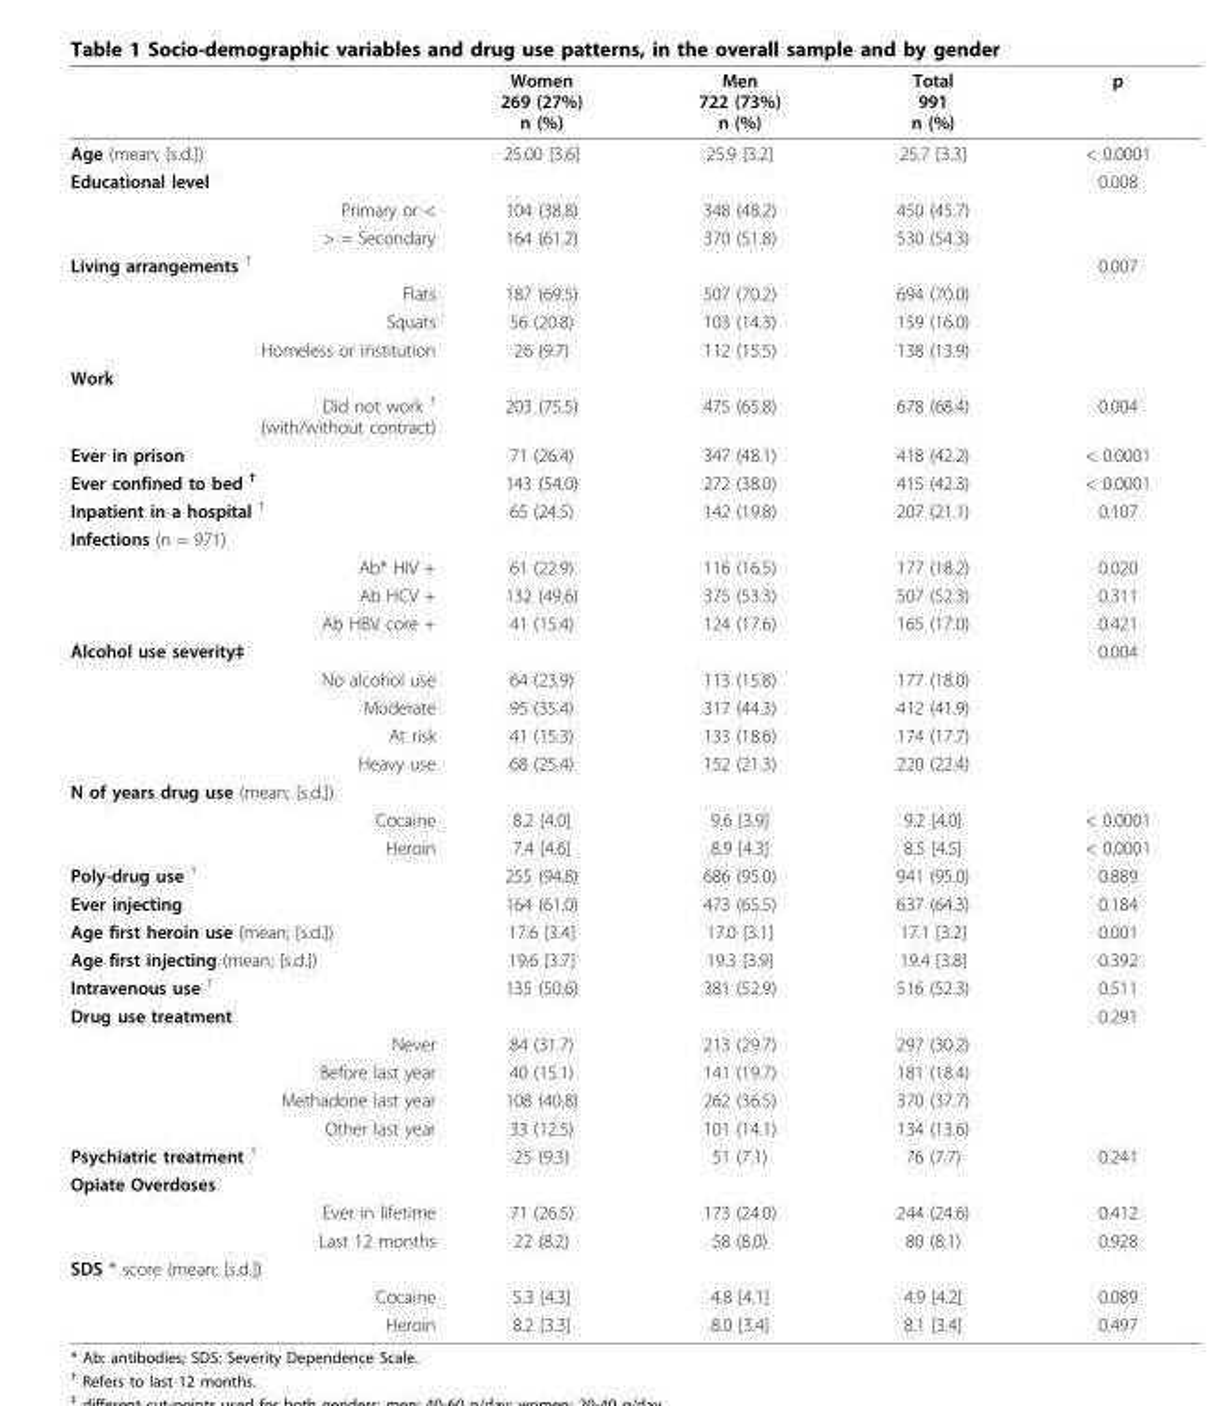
<table><thead><tr><td></td><td>Women 269 (27%) n (%)</td><td>Men 722 (73%) n (%)</td><td>Total 991 n (%)</td><td>p</td></tr></thead><tbody><tr><td>Age (mean; [s.d.])</td><td>25.00 [3.6]</td><td>25.9 [3.2]</td><td>25.7 [3.3]</td><td>&lt; 0.0001</td></tr><tr><td>Educational level</td><td></td><td></td><td></td><td>0.008</td></tr><tr><td>Primary or &lt;</td><td>104 (38.8)</td><td>348 (48.2)</td><td>450 (45.7)</td><td></td></tr><tr><td>&gt; = Secondary</td><td>164 (61.2)</td><td>370 (51.8)</td><td>530 (54.3)</td><td></td></tr><tr><td>Living arrangements <sup>†</sup></td><td></td><td></td><td></td><td>0.007</td></tr><tr><td>Flats</td><td>187 (69.5)</td><td>507 (70.2)</td><td>694 (70.0)</td><td></td></tr><tr><td>Squats</td><td>56 (20.8)</td><td>103 (14.3)</td><td>159 (16.0)</td><td></td></tr><tr><td>Homeless or institution</td><td>26 (9.7)</td><td>112 (15.5)</td><td>138 (13.9)</td><td></td></tr><tr><td colspan="5">Work</td></tr><tr><td>Did not work <sup>†</sup> (with/without contract)</td><td>203 (75.5)</td><td>475 (65.8)</td><td>678 (68.4)</td><td>0.004</td></tr><tr><td>Ever in prison</td><td>71 (26.4)</td><td>347 (48.1)</td><td>418 (42.2)</td><td>&lt; 0.0001</td></tr><tr><td>Ever confined to bed <sup>†</sup></td><td>143 (54.0)</td><td>272 (38.0)</td><td>415 (42.3)</td><td>&lt; 0.0001</td></tr><tr><td>Inpatient in a hospital <sup>†</sup></td><td>65 (24.5)</td><td>142 (19.8)</td><td>207 (21.1)</td><td>0.107</td></tr><tr><td colspan="5">Infections (n = 971)</td></tr><tr><td>Ab* HIV +</td><td>61 (22.9)</td><td>116 (16.5)</td><td>177 (18.2)</td><td>0.020</td></tr><tr><td>Ab HCV +</td><td>132 (49.6)</td><td>375 (53.3)</td><td>507 (52.3)</td><td>0.311</td></tr><tr><td>Ab HBV core +</td><td>41 (15.4)</td><td>124 (17.6)</td><td>165 (17.0)</td><td>0.421</td></tr><tr><td>Alcohol use severity‡</td><td></td><td></td><td></td><td>0.004</td></tr><tr><td>No alcohol use</td><td>64 (23.9)</td><td>113 (15.8)</td><td>177 (18.0)</td><td></td></tr><tr><td>Moderate</td><td>95 (35.4)</td><td>317 (44.3)</td><td>412 (41.9)</td><td></td></tr><tr><td>At risk</td><td>41 (15.3)</td><td>133 (18.6)</td><td>174 (17.7)</td><td></td></tr><tr><td>Heavy use</td><td>68 (25.4)</td><td>152 (21.3)</td><td>220 (22.4)</td><td></td></tr><tr><td colspan="5">N of years drug use (mean; [s.d.])</td></tr><tr><td>Cocaine</td><td>8.2 [4.0]</td><td>9.6 [3.9]</td><td>9.2 [4.0]</td><td>&lt; 0.0001</td></tr><tr><td>Heroin</td><td>7.4 [4.6]</td><td>8.9 [4.3]</td><td>8.5 [4.5]</td><td>&lt; 0.0001</td></tr><tr><td>Poly-drug use <sup>†</sup></td><td>255 (94.8)</td><td>686 (95.0)</td><td>941 (95.0)</td><td>0.889</td></tr><tr><td>Ever injecting</td><td>164 (61.0)</td><td>473 (65.5)</td><td>637 (64.3)</td><td>0.184</td></tr><tr><td>Age first heroin use (mean; [s.d.])</td><td>17.6 [3.4]</td><td>17.0 [3.1]</td><td>17.1 [3.2]</td><td>0.001</td></tr><tr><td>Age first injecting (mean; [s.d.])</td><td>19.6 [3.7]</td><td>19.3 [3.9]</td><td>19.4 [3.8]</td><td>0.392</td></tr><tr><td>Intravenous use <sup>†</sup></td><td>135 (50.6)</td><td>381 (52.9)</td><td>516 (52.3)</td><td>0.511</td></tr><tr><td>Drug use treatment</td><td></td><td></td><td></td><td>0.291</td></tr><tr><td>Never</td><td>84 (31.7)</td><td>213 (29.7)</td><td>297 (30.2)</td><td></td></tr><tr><td>Before last year</td><td>40 (15.1)</td><td>141 (19.7)</td><td>181 (18.4)</td><td></td></tr><tr><td>Methadone last year</td><td>108 (40.8)</td><td>262 (36.5)</td><td>370 (37.7)</td><td></td></tr><tr><td>Other last year</td><td>33 (12.5)</td><td>101 (14.1)</td><td>134 (13.6)</td><td></td></tr><tr><td>Psychiatric treatment <sup>†</sup></td><td>25 (9.3)</td><td>51 (7.1)</td><td>76 (7.7)</td><td>0.241</td></tr><tr><td colspan="5">Opiate Overdoses</td></tr><tr><td>Ever in lifetime</td><td>71 (26.5)</td><td>173 (24.0)</td><td>244 (24.6)</td><td>0.412</td></tr><tr><td>Last 12 months</td><td>22 (8.2)</td><td>58 (8.0)</td><td>80 (8.1)</td><td>0.928</td></tr><tr><td colspan="5">SDS * score (mean; [s.d.])</td></tr><tr><td>Cocaine</td><td>5.3 [4.3]</td><td>4.8 [4.1]</td><td>4.9 [4.2]</td><td>0.089</td></tr><tr><td>Heroin</td><td>8.2 [3.3]</td><td>8.0 [3.4]</td><td>8.1 [3.4]</td><td>0.497</td></tr></tbody></table>